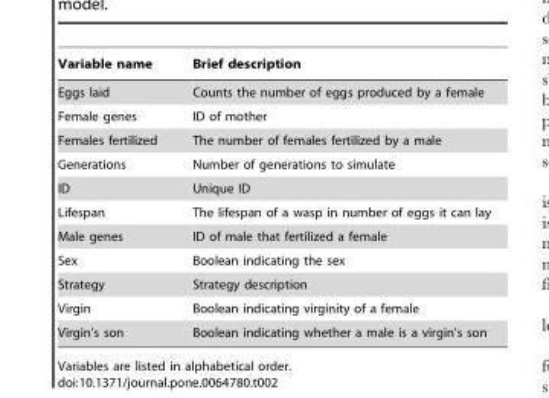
<table><thead><tr><td>Variable name</td><td>Brief description</td></tr></thead><tbody><tr><td>Eggs laid</td><td>Counts the number of eggs produced by a female</td></tr><tr><td>Female genes</td><td>ID of mother</td></tr><tr><td>Females fertilized</td><td>The number of females fertilized by a male</td></tr><tr><td>Generations</td><td>Number of generations to simulate</td></tr><tr><td>ID</td><td>Unique ID</td></tr><tr><td>Lifespan</td><td>The lifespan of a wasp in number of eggs it can lay</td></tr><tr><td>Male genes</td><td>ID of male that fertilized a female</td></tr><tr><td>Sex</td><td>Boolean indicating the sex</td></tr><tr><td>Strategy</td><td>Strategy description</td></tr><tr><td>Virgin</td><td>Boolean indicating virginity of a female</td></tr><tr><td>Virgin’s son</td><td>Boolean indicating whether a male is a virgin’s son</td></tr></tbody></table>